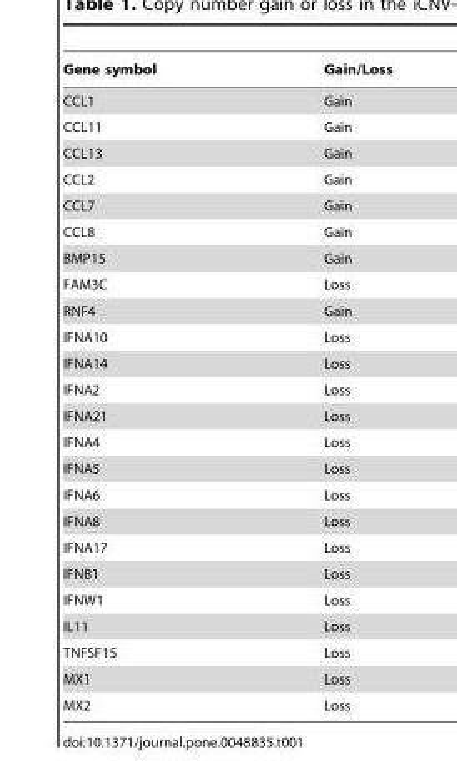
<table><thead><tr><td>Gene symbol</td><td>Gain/Loss</td></tr></thead><tbody><tr><td>CCL1</td><td>Gain</td></tr><tr><td>CCL11</td><td>Gain</td></tr><tr><td>CCL13</td><td>Gain</td></tr><tr><td>CCL2</td><td>Gain</td></tr><tr><td>CCL7</td><td>Gain</td></tr><tr><td>CCL8</td><td>Gain</td></tr><tr><td>BMP15</td><td>Gain</td></tr><tr><td>FAM3C</td><td>Loss</td></tr><tr><td>RNF4</td><td>Gain</td></tr><tr><td>IFNA10</td><td>Loss</td></tr><tr><td>IFNA14</td><td>Loss</td></tr><tr><td>IFNA2</td><td>Loss</td></tr><tr><td>IFNA21</td><td>Loss</td></tr><tr><td>IFNA4</td><td>Loss</td></tr><tr><td>IFNA5</td><td>Loss</td></tr><tr><td>IFNA6</td><td>Loss</td></tr><tr><td>IFNA8</td><td>Loss</td></tr><tr><td>IFNA17</td><td>Loss</td></tr><tr><td>IFNB1</td><td>Loss</td></tr><tr><td>IFNW1</td><td>Loss</td></tr><tr><td>IL11</td><td>Loss</td></tr><tr><td>TNFSF15</td><td>Loss</td></tr><tr><td>MX1</td><td>Loss</td></tr><tr><td>MX2</td><td>Loss</td></tr></tbody></table>